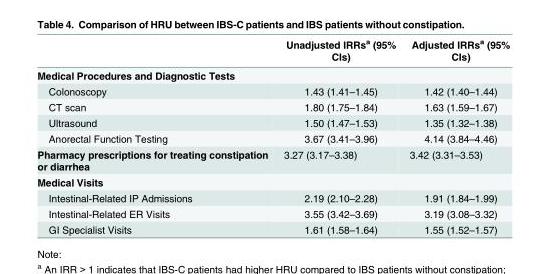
<table><thead><tr><td></td><td>Unadjusted IRRs<sup>a</sup> (95% CIs)</td><td>Adjusted IRRs<sup>a</sup> (95% CIs)</td></tr></thead><tbody><tr><td colspan="3">Medical Procedures and Diagnostic Tests</td></tr><tr><td>Colonoscopy</td><td>1.43 (1.41–1.45)</td><td>1.42 (1.40–1.44)</td></tr><tr><td>CT scan</td><td>1.80 (1.75–1.84)</td><td>1.63 (1.59–1.67)</td></tr><tr><td>Ultrasound</td><td>1.50 (1.47–1.53)</td><td>1.35 (1.32–1.38)</td></tr><tr><td>Anorectal Function Testing</td><td>3.67 (3.41–3.96)</td><td>4.14 (3.84–4.46)</td></tr><tr><td>Pharmacy prescriptions for treating constipation or diarrhea</td><td>3.27 (3.17–3.38)</td><td>3.42 (3.31–3.53)</td></tr><tr><td colspan="3">Medical Visits</td></tr><tr><td>Intestinal-Related IP Admissions</td><td>2.19 (2.10–2.28)</td><td>1.91 (1.84–1.99)</td></tr><tr><td>Intestinal-Related ER Visits</td><td>3.55 (3.42–3.69)</td><td>3.19 (3.08–3.32)</td></tr><tr><td>GI Specialist Visits</td><td>1.61 (1.58–1.64)</td><td>1.55 (1.52–1.57)</td></tr></tbody></table>